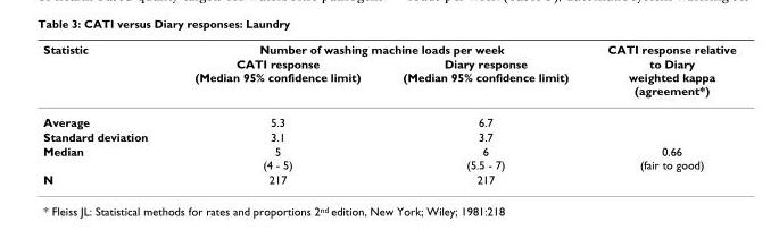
<table><thead><tr><td rowspan="2">Statistic</td><td colspan="2">Number of washing machine loads per week</td><td rowspan="2">CATI response relative to Diary weighted kappa (agreement*)</td></tr><tr><td>CATI response (Median 95% confidence limit)</td><td>Diary response (Median 95% confidence limit)</td></tr></thead><tbody><tr><td>Average</td><td>5.3</td><td>6.7</td><td></td></tr><tr><td>Standard deviation</td><td>3.1</td><td>3.7</td><td></td></tr><tr><td>Median</td><td>5 (4 - 5)</td><td>6 (5.5 - 7)</td><td>0.66 (fair to good)</td></tr><tr><td>N</td><td>217</td><td>217</td><td></td></tr></tbody></table>